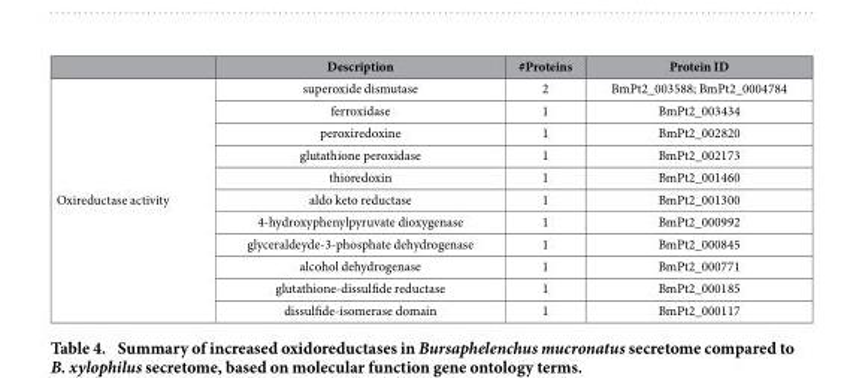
<table><thead><tr><td></td><td>Description</td><td>#Proteins</td><td>Protein ID</td></tr></thead><tbody><tr><td rowspan="11">Oxireductase activity</td><td>superoxide dismutase</td><td>2</td><td>BmPt2_003588; BmPt2_0004784</td></tr><tr><td>ferroxidase</td><td>1</td><td>BmPt2_003434</td></tr><tr><td>peroxiredoxine</td><td>1</td><td>BmPt2_002820</td></tr><tr><td>glutathione peroxidase</td><td>1</td><td>BmPt2_002173</td></tr><tr><td>thioredoxin</td><td>1</td><td>BmPt2_001460</td></tr><tr><td>aldo keto reductase</td><td>1</td><td>BmPt2_001300</td></tr><tr><td>4-hydroxyphenylpyruvate dioxygenase</td><td>1</td><td>BmPt2_000992</td></tr><tr><td>glyceraldeyde-3-phosphate dehydrogenase</td><td>1</td><td>BmPt2_000845</td></tr><tr><td>alcohol dehydrogenase</td><td>1</td><td>BmPt2_000771</td></tr><tr><td>glutathione-dissulfide reductase</td><td>1</td><td>BmPt2_000185</td></tr><tr><td>dissulfide-isomerase domain</td><td>1</td><td>BmPt2_000117</td></tr></tbody></table>